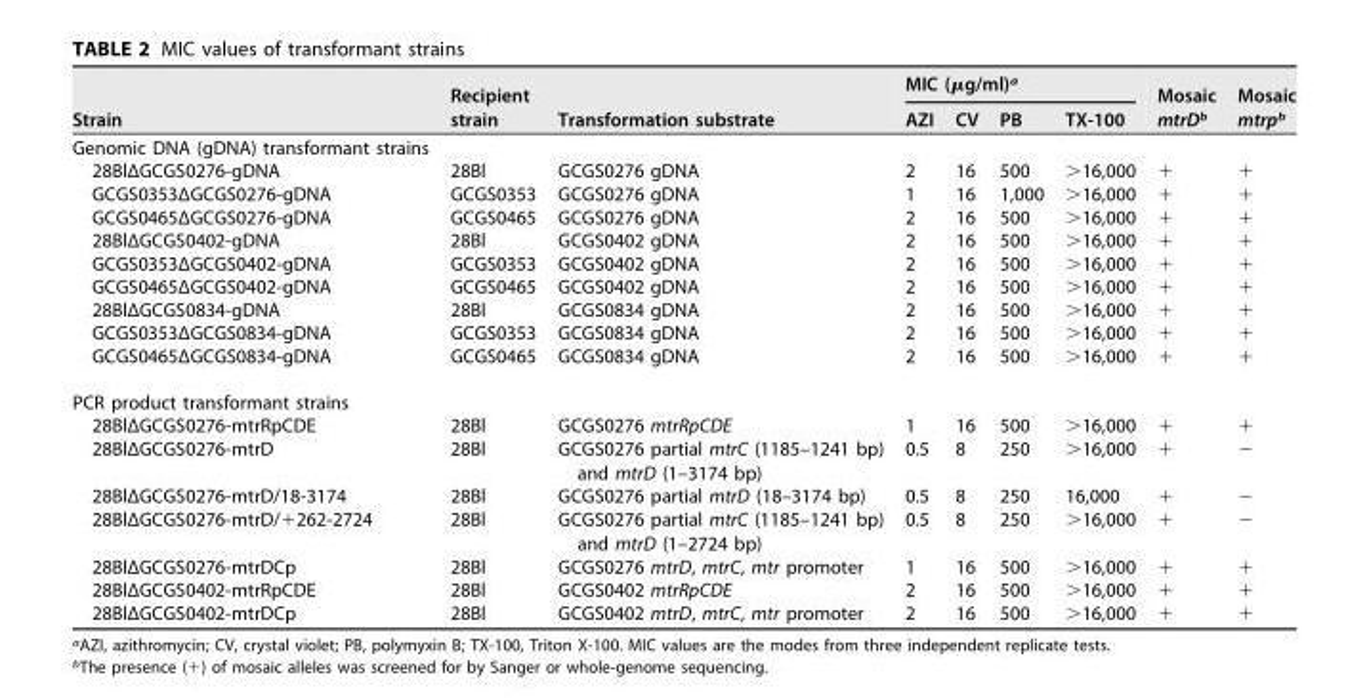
<table><thead><tr><td rowspan="2">Strain</td><td rowspan="2">Recipient strain</td><td rowspan="2">Transformation substrate</td><td colspan="4">MIC (µg/ml)<sup>a</sup></td><td rowspan="2">Mosaic mtrD<sup>b</sup></td><td rowspan="2">Mosaic mtrp<sup>b</sup></td></tr><tr><td>AZI</td><td>CV</td><td>PB</td><td>TX-100</td></tr></thead><tbody><tr><td colspan="9">Genomic DNA (gDNA) transformant strains</td></tr><tr><td>28BlΔGCGS0276-gDNA</td><td>28Bl</td><td>GCGS0276 gDNA</td><td>2</td><td>16</td><td>500</td><td>&gt;16,000</td><td>+</td><td>+</td></tr><tr><td>GCGS0353ΔGCGS0276-gDNA</td><td>GCGS0353</td><td>GCGS0276 gDNA</td><td>1</td><td>16</td><td>1,000</td><td>&gt;16,000</td><td>+</td><td>+</td></tr><tr><td>GCGS0465ΔGCGS0276-gDNA</td><td>GCGS0465</td><td>GCGS0276 gDNA</td><td>2</td><td>16</td><td>500</td><td>&gt;16,000</td><td>+</td><td>+</td></tr><tr><td>28BlΔGCGS0402-gDNA</td><td>28Bl</td><td>GCGS0402 gDNA</td><td>2</td><td>16</td><td>500</td><td>&gt;16,000</td><td>+</td><td>+</td></tr><tr><td>GCGS0353ΔGCGS0402-gDNA</td><td>GCGS0353</td><td>GCGS0402 gDNA</td><td>2</td><td>16</td><td>500</td><td>&gt;16,000</td><td>+</td><td>+</td></tr><tr><td>GCGS0465ΔGCGS0402-gDNA</td><td>GCGS0465</td><td>GCGS0402 gDNA</td><td>2</td><td>16</td><td>500</td><td>&gt;16,000</td><td>+</td><td>+</td></tr><tr><td>28BlΔGCGS0834-gDNA</td><td>28Bl</td><td>GCGS0834 gDNA</td><td>2</td><td>16</td><td>500</td><td>&gt;16,000</td><td>+</td><td>+</td></tr><tr><td>GCGS0353ΔGCGS0834-gDNA</td><td>GCGS0353</td><td>GCGS0834 gDNA</td><td>2</td><td>16</td><td>500</td><td>&gt;16,000</td><td>+</td><td>+</td></tr><tr><td>GCGS0465ΔGCGS0834-gDNA</td><td>GCGS0465</td><td>GCGS0834 gDNA</td><td>2</td><td>16</td><td>500</td><td>&gt;16,000</td><td>+</td><td>+</td></tr><tr><td colspan="9">PCR product transformant strains</td></tr><tr><td>28BlΔGCGS0276-mtrRpCDE</td><td>28Bl</td><td>GCGS0276 mtrRpCDE</td><td>1</td><td>16</td><td>500</td><td>&gt;16,000</td><td>+</td><td>+</td></tr><tr><td>28BlΔGCGS0276-mtrD</td><td>28Bl</td><td>GCGS0276 partial mtrC (1185–1241 bp) and mtrD (1–3174 bp)</td><td>0.5</td><td>8</td><td>250</td><td>&gt;16,000</td><td>+</td><td>−</td></tr><tr><td>28BlΔGCGS0276-mtrD/18-3174</td><td>28Bl</td><td>GCGS0276 partial mtrD (18–3174 bp)</td><td>0.5</td><td>8</td><td>250</td><td>16,000</td><td>+</td><td>−</td></tr><tr><td>28BlΔGCGS0276-mtrD/+262-2724</td><td>28Bl</td><td>GCGS0276 partial mtrC (1185–1241 bp) and mtrD (1–2724 bp)</td><td>0.5</td><td>8</td><td>250</td><td>&gt;16,000</td><td>+</td><td>−</td></tr><tr><td>28BlΔGCGS0276-mtrDCp</td><td>28Bl</td><td>GCGS0276 mtrD, mtrC, mtr promoter</td><td>1</td><td>16</td><td>500</td><td>&gt;16,000</td><td>+</td><td>+</td></tr><tr><td>28BlΔGCGS0402-mtrRpCDE</td><td>28Bl</td><td>GCGS0402 mtrRpCDE</td><td>2</td><td>16</td><td>500</td><td>&gt;16,000</td><td>+</td><td>+</td></tr><tr><td>28BlΔGCGS0402-mtrDCp</td><td>28Bl</td><td>GCGS0402 mtrD, mtrC, mtr promoter</td><td>2</td><td>16</td><td>500</td><td>&gt;16,000</td><td>+</td><td>+</td></tr></tbody></table>